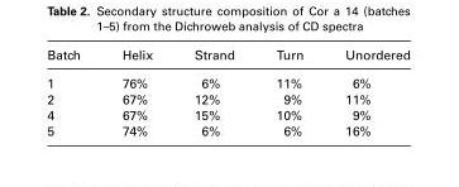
<table><thead><tr><td>Batch</td><td>Helix</td><td>Strand</td><td>Turn</td><td>Unordered</td></tr></thead><tbody><tr><td>1</td><td>76%</td><td>6%</td><td>11%</td><td>6%</td></tr><tr><td>2</td><td>67%</td><td>12%</td><td>9%</td><td>11%</td></tr><tr><td>4</td><td>67%</td><td>15%</td><td>10%</td><td>9%</td></tr><tr><td>5</td><td>74%</td><td>6%</td><td>6%</td><td>16%</td></tr></tbody></table>